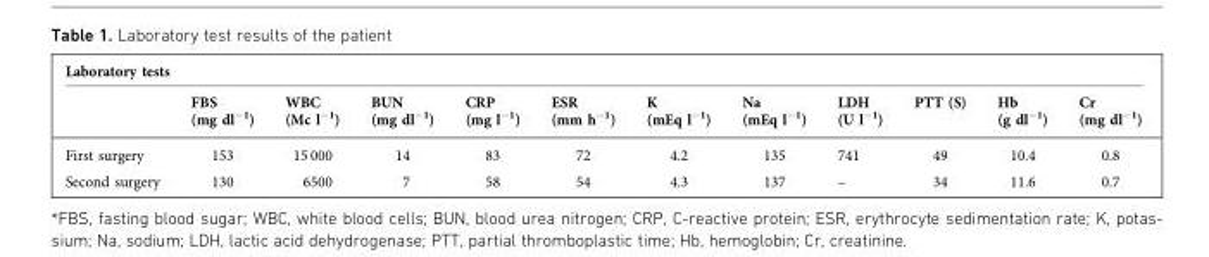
<table><thead><tr><td colspan="12">Laboratory tests</td></tr><tr><td></td><td>FBS (mg dl<sup>−1</sup>)</td><td>WBC (Mc l<sup>−1</sup>)</td><td>BUN (mg dl<sup>−1</sup>)</td><td>CRP (mg l<sup>−1</sup>)</td><td>ESR (mm h<sup>−1</sup>)</td><td>K (mEq l<sup>−1</sup>)</td><td>Na (mEq l<sup>−1</sup>)</td><td>LDH (U l<sup>−1</sup>)</td><td>PTT (S)</td><td>Hb (g dl<sup>−1</sup>)</td><td>Cr (mg dl<sup>−1</sup>)</td></tr></thead><tbody><tr><td>First surgery</td><td>153</td><td>15 000</td><td>14</td><td>83</td><td>72</td><td>4.2</td><td>135</td><td>741</td><td>49</td><td>10.4</td><td>0.8</td></tr><tr><td>Second surgery</td><td>130</td><td>6500</td><td>7</td><td>58</td><td>54</td><td>4.3</td><td>137</td><td>–</td><td>34</td><td>11.6</td><td>0.7</td></tr></tbody></table>